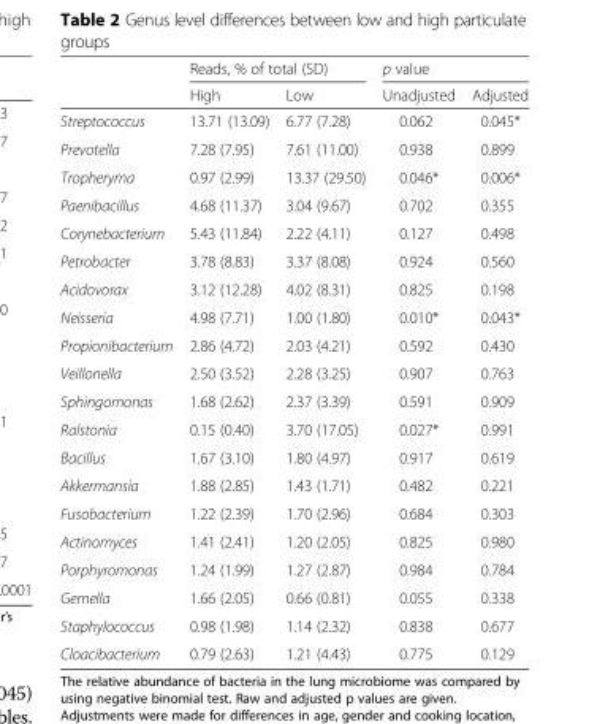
<table><thead><tr><td rowspan="2"></td><td colspan="2">Reads, % of total (SD)</td><td colspan="2">p value</td></tr><tr><td>High</td><td>Low</td><td>Unadjusted</td><td>Adjusted</td></tr></thead><tbody><tr><td>Streptococcus</td><td>13.71 (13.09)</td><td>6.77 (7.28)</td><td>0.062</td><td>0.045*</td></tr><tr><td>Prevotella</td><td>7.28 (7.95)</td><td>7.61 (11.00)</td><td>0.938</td><td>0.899</td></tr><tr><td>Tropheryma</td><td>0.97 (2.99)</td><td>13.37 (29.50)</td><td>0.046*</td><td>0.006*</td></tr><tr><td>Paenibacillus</td><td>4.68 (11.37)</td><td>3.04 (9.67)</td><td>0.702</td><td>0.355</td></tr><tr><td>Corynebacterium</td><td>5.43 (11.84)</td><td>2.22 (4.11)</td><td>0.127</td><td>0.498</td></tr><tr><td>Petrobacter</td><td>3.78 (8.83)</td><td>3.37 (8.08)</td><td>0.924</td><td>0.560</td></tr><tr><td>Acidovorax</td><td>3.12 (12.28)</td><td>4.02 (8.31)</td><td>0.825</td><td>0.198</td></tr><tr><td>Neisseria</td><td>4.98 (7.71)</td><td>1.00 (1.80)</td><td>0.010*</td><td>0.043*</td></tr><tr><td>Propionibacterium</td><td>2.86 (4.72)</td><td>2.03 (4.21)</td><td>0.592</td><td>0.430</td></tr><tr><td>Veillonella</td><td>2.50 (3.52)</td><td>2.28 (3.25)</td><td>0.907</td><td>0.763</td></tr><tr><td>Sphingomonas</td><td>1.68 (2.62)</td><td>2.37 (3.39)</td><td>0.591</td><td>0.909</td></tr><tr><td>Ralstonia</td><td>0.15 (0.40)</td><td>3.70 (17.05)</td><td>0.027*</td><td>0.991</td></tr><tr><td>Bacillus</td><td>1.67 (3.10)</td><td>1.80 (4.97)</td><td>0.917</td><td>0.619</td></tr><tr><td>Akkermansia</td><td>1.88 (2.85)</td><td>1.43 (1.71)</td><td>0.482</td><td>0.221</td></tr><tr><td>Fusobacterium</td><td>1.22 (2.39)</td><td>1.70 (2.96)</td><td>0.684</td><td>0.303</td></tr><tr><td>Actinomyces</td><td>1.41 (2.41)</td><td>1.20 (2.05)</td><td>0.825</td><td>0.980</td></tr><tr><td>Porphyromonas</td><td>1.24 (1.99)</td><td>1.27 (2.87)</td><td>0.984</td><td>0.784</td></tr><tr><td>Gemella</td><td>1.66 (2.05)</td><td>0.66 (0.81)</td><td>0.055</td><td>0.338</td></tr><tr><td>Staphylococcus</td><td>0.98 (1.98)</td><td>1.14 (2.32)</td><td>0.838</td><td>0.677</td></tr><tr><td>Cloacibacterium</td><td>0.79 (2.63)</td><td>1.21 (4.43)</td><td>0.775</td><td>0.129</td></tr></tbody></table>